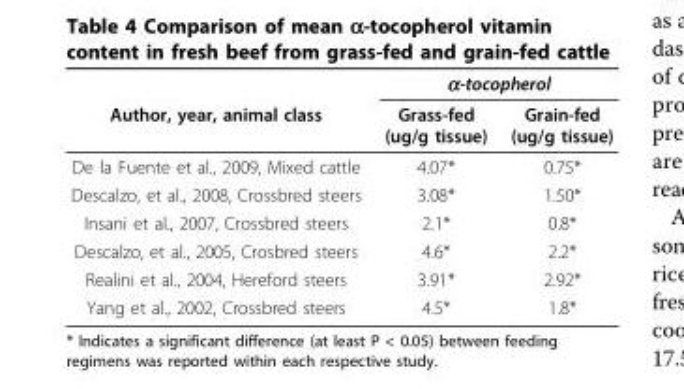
<table><thead><tr><td rowspan="2">Author, year, animal class</td><td colspan="2">α-tocopherol</td></tr><tr><td>Grass-fed (ug/g tissue)</td><td>Grain-fed (ug/g tissue)</td></tr></thead><tbody><tr><td>De la Fuente et al., 2009, Mixed cattle</td><td>4.07*</td><td>0.75*</td></tr><tr><td>Descalzo, et al., 2008, Crossbred steers</td><td>3.08*</td><td>1.50*</td></tr><tr><td>Insani et al., 2007, Crossbred steers</td><td>2.1*</td><td>0.8*</td></tr><tr><td>Descalzo, et al., 2005, Crosbred steers</td><td>4.6*</td><td>2.2*</td></tr><tr><td>Realini et al., 2004, Hereford steers</td><td>3.91*</td><td>2.92*</td></tr><tr><td>Yang et al., 2002, Crossbred steers</td><td>4.5*</td><td>1.8*</td></tr></tbody></table>